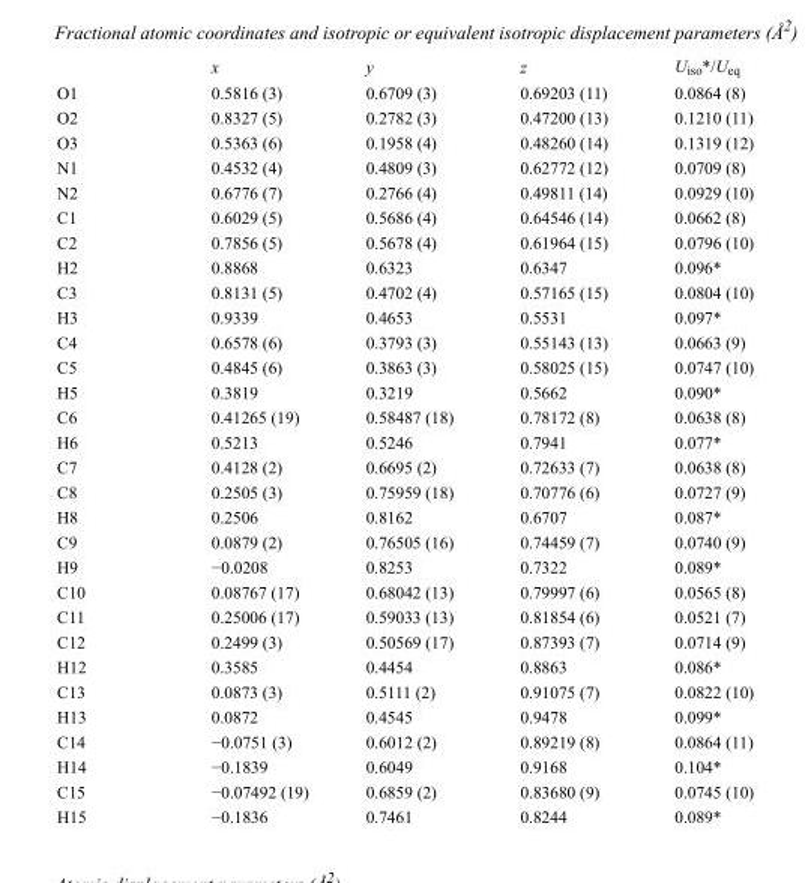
<table><thead><tr><td></td><td>x</td><td>y</td><td>z</td><td>U<sub>iso</sub>*/U<sub>eq</sub></td></tr></thead><tbody><tr><td>O1</td><td>0.5816 (3)</td><td>0.6709 (3)</td><td>0.69203 (11)</td><td>0.0864 (8)</td></tr><tr><td>O2</td><td>0.8327 (5)</td><td>0.2782 (3)</td><td>0.47200 (13)</td><td>0.1210 (11)</td></tr><tr><td>O3</td><td>0.5363 (6)</td><td>0.1958 (4)</td><td>0.48260 (14)</td><td>0.1319 (12)</td></tr><tr><td>N1</td><td>0.4532 (4)</td><td>0.4809 (3)</td><td>0.62772 (12)</td><td>0.0709 (8)</td></tr><tr><td>N2</td><td>0.6776 (7)</td><td>0.2766 (4)</td><td>0.49811 (14)</td><td>0.0929 (10)</td></tr><tr><td>C1</td><td>0.6029 (5)</td><td>0.5686 (4)</td><td>0.64546 (14)</td><td>0.0662 (8)</td></tr><tr><td>C2</td><td>0.7856 (5)</td><td>0.5678 (4)</td><td>0.61964 (15)</td><td>0.0796 (10)</td></tr><tr><td>H2</td><td>0.8868</td><td>0.6323</td><td>0.6347</td><td>0.096*</td></tr><tr><td>C3</td><td>0.8131 (5)</td><td>0.4702 (4)</td><td>0.57165 (15)</td><td>0.0804 (10)</td></tr><tr><td>H3</td><td>0.9339</td><td>0.4653</td><td>0.5531</td><td>0.097*</td></tr><tr><td>C4</td><td>0.6578 (6)</td><td>0.3793 (3)</td><td>0.55143 (13)</td><td>0.0663 (9)</td></tr><tr><td>C5</td><td>0.4845 (6)</td><td>0.3863 (3)</td><td>0.58025 (15)</td><td>0.0747 (10)</td></tr><tr><td>H5</td><td>0.3819</td><td>0.3219</td><td>0.5662</td><td>0.090*</td></tr><tr><td>C6</td><td>0.41265 (19)</td><td>0.58487 (18)</td><td>0.78172 (8)</td><td>0.0638 (8)</td></tr><tr><td>H6</td><td>0.5213</td><td>0.5246</td><td>0.7941</td><td>0.077*</td></tr><tr><td>C7</td><td>0.4128 (2)</td><td>0.6695 (2)</td><td>0.72633 (7)</td><td>0.0638 (8)</td></tr><tr><td>C8</td><td>0.2505 (3)</td><td>0.75959 (18)</td><td>0.70776 (6)</td><td>0.0727 (9)</td></tr><tr><td>H8</td><td>0.2506</td><td>0.8162</td><td>0.6707</td><td>0.087*</td></tr><tr><td>C9</td><td>0.0879 (2)</td><td>0.76505 (16)</td><td>0.74459 (7)</td><td>0.0740 (9)</td></tr><tr><td>H9</td><td>−0.0208</td><td>0.8253</td><td>0.7322</td><td>0.089*</td></tr><tr><td>C10</td><td>0.08767 (17)</td><td>0.68042 (13)</td><td>0.79997 (6)</td><td>0.0565 (8)</td></tr><tr><td>C11</td><td>0.25006 (17)</td><td>0.59033 (13)</td><td>0.81854 (6)</td><td>0.0521 (7)</td></tr><tr><td>C12</td><td>0.2499 (3)</td><td>0.50569 (17)</td><td>0.87393 (7)</td><td>0.0714 (9)</td></tr><tr><td>H12</td><td>0.3585</td><td>0.4454</td><td>0.8863</td><td>0.086*</td></tr><tr><td>C13</td><td>0.0873 (3)</td><td>0.5111 (2)</td><td>0.91075 (7)</td><td>0.0822 (10)</td></tr><tr><td>H13</td><td>0.0872</td><td>0.4545</td><td>0.9478</td><td>0.099*</td></tr><tr><td>C14</td><td>−0.0751 (3)</td><td>0.6012 (2)</td><td>0.89219 (8)</td><td>0.0864 (11)</td></tr><tr><td>H14</td><td>−0.1839</td><td>0.6049</td><td>0.9168</td><td>0.104*</td></tr><tr><td>C15</td><td>−0.07492 (19)</td><td>0.6859 (2)</td><td>0.83680 (9)</td><td>0.0745 (10)</td></tr><tr><td>H15</td><td>−0.1836</td><td>0.7461</td><td>0.8244</td><td>0.089*</td></tr></tbody></table>